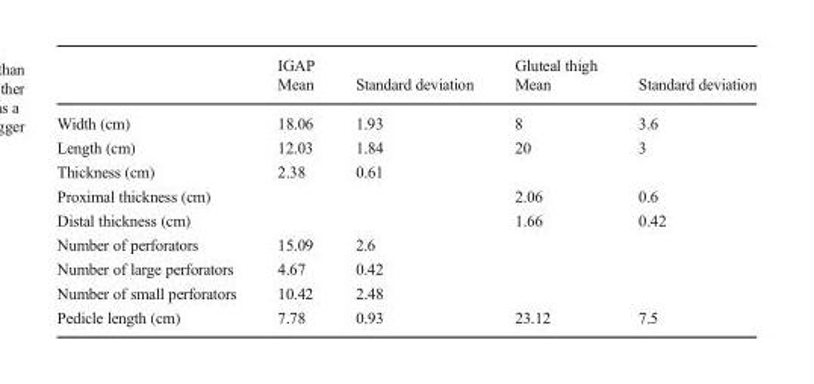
<table><thead><tr><td rowspan="2"></td><td rowspan="2">IGAP Mean</td><td rowspan="2">Standard deviation</td><td rowspan="2">Gluteal thigh Mean</td><td rowspan="2">Standard deviation</td></tr><tr></tr></thead><tbody><tr><td>Width (cm)</td><td>18.06</td><td>1.93</td><td>8</td><td>3.6</td></tr><tr><td>Length (cm)</td><td>12.03</td><td>1.84</td><td>20</td><td>3</td></tr><tr><td>Thickness (cm)</td><td>2.38</td><td>0.61</td><td></td><td></td></tr><tr><td>Proximal thickness (cm)</td><td></td><td></td><td>2.06</td><td>0.6</td></tr><tr><td>Distal thickness (cm)</td><td></td><td></td><td>1.66</td><td>0.42</td></tr><tr><td>Number of perforators</td><td>15.09</td><td>2.6</td><td></td><td></td></tr><tr><td>Number of large perforators</td><td>4.67</td><td>0.42</td><td></td><td></td></tr><tr><td>Number of small perforators</td><td>10.42</td><td>2.48</td><td></td><td></td></tr><tr><td>Pedicle length (cm)</td><td>7.78</td><td>0.93</td><td>23.12</td><td>7.5</td></tr></tbody></table>